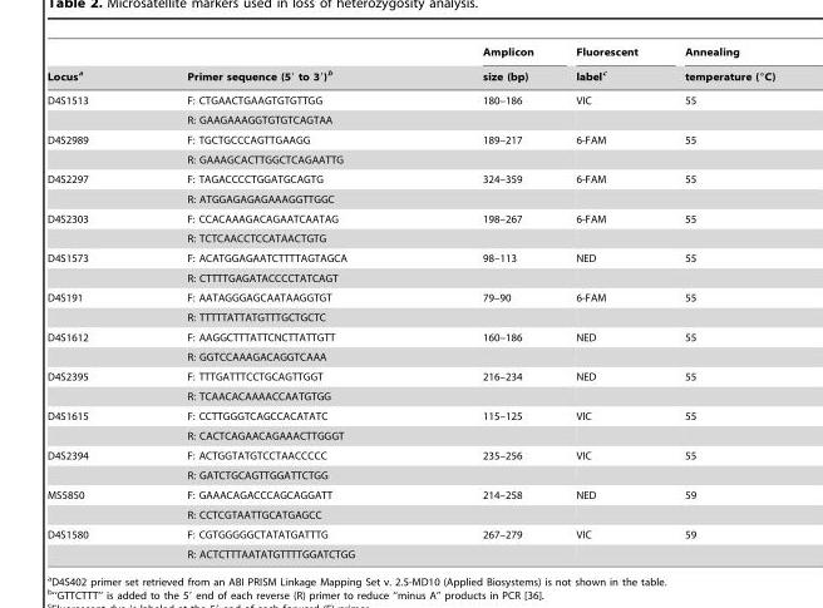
<table><thead><tr><td rowspan="2">Locus<sup>a</sup></td><td rowspan="2">Primer sequence (5′ to 3′)<sup>b</sup></td><td rowspan="2">Amplicon size (bp)</td><td rowspan="2">Fluorescent label<sup>c</sup></td><td rowspan="2">Annealing temperature (°C)</td></tr><tr></tr></thead><tbody><tr><td rowspan="2">D4S1513</td><td>F: CTGAACTGAAGTGTGTTGG</td><td>180–186</td><td>VIC</td><td>55</td></tr><tr><td>R: GAAGAAAGGTGTGTCAGTAA</td><td></td><td></td><td></td></tr><tr><td rowspan="2">D4S2989</td><td>F: TGCTGCCCAGTTGAAGG</td><td>189–217</td><td>6-FAM</td><td>55</td></tr><tr><td>R: GAAAGCACTTGGCTCAGAATTG</td><td></td><td></td><td></td></tr><tr><td rowspan="2">D4S2297</td><td>F: TAGACCCCTGGATGCAGTG</td><td>324–359</td><td>6-FAM</td><td>55</td></tr><tr><td>R: ATGGAGAGAGAAAGGTTGGC</td><td></td><td></td><td></td></tr><tr><td rowspan="2">D4S2303</td><td>F: CCACAAAGACAGAATCAATAG</td><td>198–267</td><td>6-FAM</td><td>55</td></tr><tr><td>R: TCTCAACCTCCATAACTGTG</td><td></td><td></td><td></td></tr><tr><td rowspan="2">D4S1573</td><td>F: ACATGGAGAATCTTTTAGTAGCA</td><td>98–113</td><td>NED</td><td>55</td></tr><tr><td>R: CTTTTGAGATACCCCTATCAGT</td><td></td><td></td><td></td></tr><tr><td rowspan="2">D4S191</td><td>F: AATAGGGAGCAATAAGGTGT</td><td>79–90</td><td>6-FAM</td><td>55</td></tr><tr><td>R: TTTTTATTATGTTTGCTGCTC</td><td></td><td></td><td></td></tr><tr><td rowspan="2">D4S1612</td><td>F: AAGGCTTTATTCNCTTATTGTT</td><td>160–186</td><td>NED</td><td>55</td></tr><tr><td>R: GGTCCAAAGACAGGTCAAA</td><td></td><td></td><td></td></tr><tr><td rowspan="2">D4S2395</td><td>F: TTTGATTTCCTGCAGTTGGT</td><td>216–234</td><td>NED</td><td>55</td></tr><tr><td>R: TCAACACAAAACCAATGTGG</td><td></td><td></td><td></td></tr><tr><td rowspan="2">D4S1615</td><td>F: CCTTGGGTCAGCCACATATC</td><td>115–125</td><td>VIC</td><td>55</td></tr><tr><td>R: CACTCAGAACAGAAACTTGGGT</td><td></td><td></td><td></td></tr><tr><td rowspan="2">D4S2394</td><td>F: ACTGGTATGTCCTAACCCCC</td><td>235–256</td><td>VIC</td><td>55</td></tr><tr><td>R: GATCTGCAGTTGGATTCTGG</td><td></td><td></td><td></td></tr><tr><td rowspan="2">MS5850</td><td>F: GAAACAGACCCAGCAGGATT</td><td>214–258</td><td>NED</td><td>59</td></tr><tr><td>R: CCTCGTAATTGCATGAGCC</td><td></td><td></td><td></td></tr><tr><td rowspan="2">D4S1580</td><td>F: CGTGGGGGCTATATGATTTG</td><td>267–279</td><td>VIC</td><td>59</td></tr><tr><td>R: ACTCTTTAATATGTTTTGGATCTGG</td><td></td><td></td><td></td></tr></tbody></table>